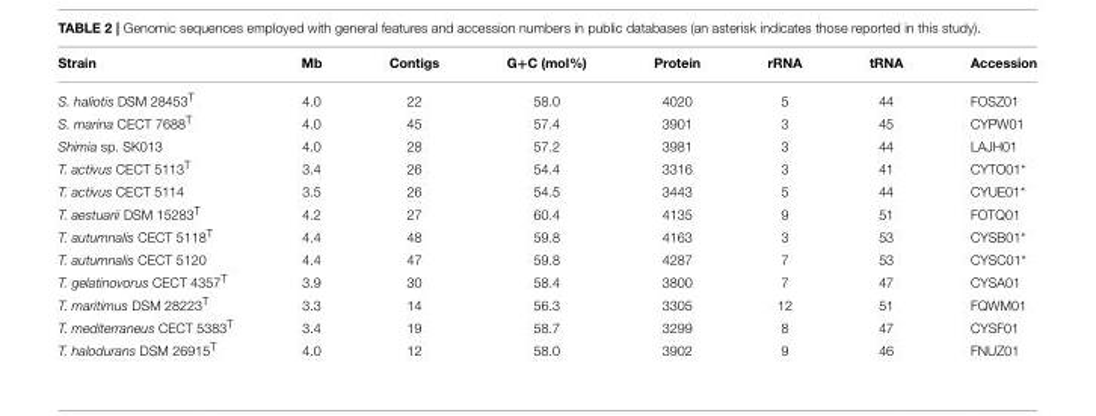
<table><thead><tr><td>Strain</td><td>Mb</td><td>Contigs</td><td>G+C (mol%)</td><td>Protein</td><td>rRNA</td><td>tRNA</td><td>Accession</td></tr></thead><tbody><tr><td>S. haliotis DSM 28453<sup>T</sup></td><td>4.0</td><td>22</td><td>58.0</td><td>4020</td><td>5</td><td>44</td><td>FOSZ01</td></tr><tr><td>S. marina CECT 7688<sup>T</sup></td><td>4.0</td><td>45</td><td>57.4</td><td>3901</td><td>3</td><td>45</td><td>CYPW01</td></tr><tr><td>Shimia sp. SK013</td><td>4.0</td><td>28</td><td>57.2</td><td>3981</td><td>3</td><td>44</td><td>LAJH01</td></tr><tr><td>T. activus CECT 5113<sup>T</sup></td><td>3.4</td><td>26</td><td>54.4</td><td>3316</td><td>3</td><td>41</td><td>CYTO01*</td></tr><tr><td>T. activus CECT 5114</td><td>3.5</td><td>26</td><td>54.5</td><td>3443</td><td>5</td><td>44</td><td>CYUE01*</td></tr><tr><td>T. aestuarii DSM 15283<sup>T</sup></td><td>4.2</td><td>27</td><td>60.4</td><td>4135</td><td>9</td><td>51</td><td>FOTQ01</td></tr><tr><td>T. autumnalis CECT 5118<sup>T</sup></td><td>4.4</td><td>48</td><td>59.8</td><td>4163</td><td>3</td><td>53</td><td>CYSB01*</td></tr><tr><td>T. autumnalis CECT 5120</td><td>4.4</td><td>47</td><td>59.8</td><td>4287</td><td>7</td><td>53</td><td>CYSC01*</td></tr><tr><td>T. gelatinovorus CECT 4357<sup>T</sup></td><td>3.9</td><td>30</td><td>58.4</td><td>3800</td><td>7</td><td>47</td><td>CYSA01</td></tr><tr><td>T. maritimus DSM 28223<sup>T</sup></td><td>3.3</td><td>14</td><td>56.3</td><td>3305</td><td>12</td><td>51</td><td>FQWM01</td></tr><tr><td>T. mediterraneus CECT 5383<sup>T</sup></td><td>3.4</td><td>19</td><td>58.7</td><td>3299</td><td>8</td><td>47</td><td>CYSF01</td></tr><tr><td>T. halodurans DSM 26915<sup>T</sup></td><td>4.0</td><td>12</td><td>58.0</td><td>3902</td><td>9</td><td>46</td><td>FNUZ01</td></tr></tbody></table>